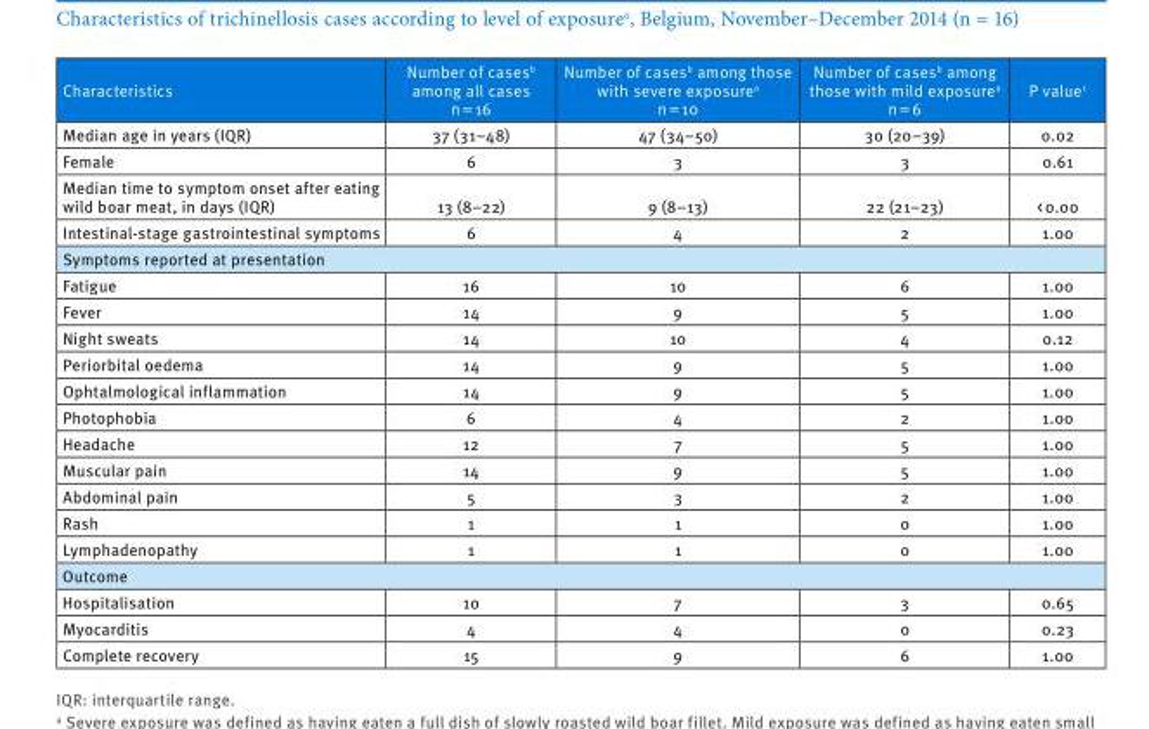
<table><thead><tr><td>Characteristics</td><td>Number of cases<sup>b</sup> among all cases n = 16</td><td>Number of cases<sup>b</sup> among those with severe exposure<sup>a</sup> n = 10</td><td>Number of cases<sup>b</sup> among those with mild exposure<sup>a</sup> n = 6</td><td>P value<sup>c</sup></td></tr></thead><tbody><tr><td>Median age in years (IQR)</td><td>37 (31–48)</td><td>47 (34–50)</td><td>30 (20–39)</td><td>0.02</td></tr><tr><td>Female</td><td>6</td><td>3</td><td>3</td><td>0.61</td></tr><tr><td>Median time to symptom onset after eating wild boar meat, in days (IQR)</td><td>13 (8–22)</td><td>9 (8–13)</td><td>22 (21–23)</td><td>&lt; 0.00</td></tr><tr><td>Intestinal-stage gastrointestinal symptoms</td><td>6</td><td>4</td><td>2</td><td>1.00</td></tr><tr><td colspan="5">Symptoms reported at presentation</td></tr><tr><td>Fatigue</td><td>16</td><td>10</td><td>6</td><td>1.00</td></tr><tr><td>Fever</td><td>14</td><td>9</td><td>5</td><td>1.00</td></tr><tr><td>Night sweats</td><td>14</td><td>10</td><td>4</td><td>0.12</td></tr><tr><td>Periorbital oedema</td><td>14</td><td>9</td><td>5</td><td>1.00</td></tr><tr><td>Ophtalmological inflammation</td><td>14</td><td>9</td><td>5</td><td>1.00</td></tr><tr><td>Photophobia</td><td>6</td><td>4</td><td>2</td><td>1.00</td></tr><tr><td>Headache</td><td>12</td><td>7</td><td>5</td><td>1.00</td></tr><tr><td>Muscular pain</td><td>14</td><td>9</td><td>5</td><td>1.00</td></tr><tr><td>Abdominal pain</td><td>5</td><td>3</td><td>2</td><td>1.00</td></tr><tr><td>Rash</td><td>1</td><td>1</td><td>0</td><td>1.00</td></tr><tr><td>Lymphadenopathy</td><td>1</td><td>1</td><td>0</td><td>1.00</td></tr><tr><td colspan="5">Outcome</td></tr><tr><td>Hospitalisation</td><td>10</td><td>7</td><td>3</td><td>0.65</td></tr><tr><td>Myocarditis</td><td>4</td><td>4</td><td>0</td><td>0.23</td></tr><tr><td>Complete recovery</td><td>15</td><td>9</td><td>6</td><td>1.00</td></tr></tbody></table>